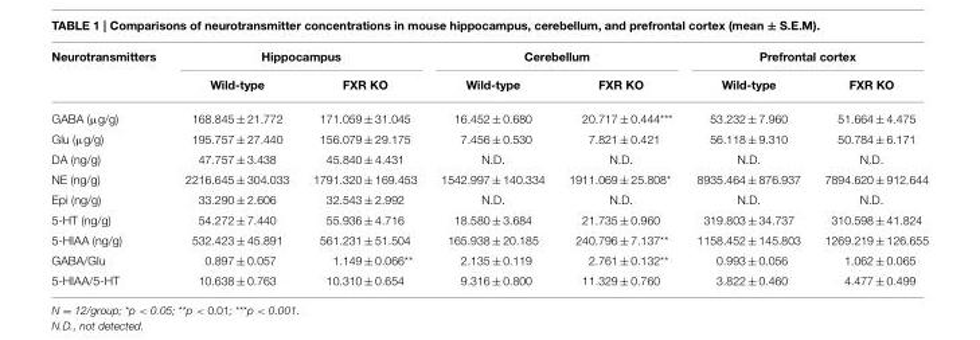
<table><thead><tr><td rowspan="2">Neurotransmitters</td><td colspan="2">Hippocampus</td><td colspan="2">Cerebellum</td><td colspan="2">Prefrontal cortex</td></tr><tr><td>Wild-type</td><td>FXR KO</td><td>Wild-type</td><td>FXR KO</td><td>Wild-type</td><td>FXR KO</td></tr></thead><tbody><tr><td>GABA (µg/g)</td><td>168.845 ± 21.772</td><td>171.059 ± 31.045</td><td>16.452 ± 0.680</td><td>20.717 ± 0.444***</td><td>53.232 ± 7.960</td><td>51.664 ± 4.475</td></tr><tr><td>Glu (µg/g)</td><td>195.757 ± 27.440</td><td>156.079 ± 29.175</td><td>7.456 ± 0.530</td><td>7.821 ± 0.421</td><td>56.118 ± 9.310</td><td>50.784 ± 6.171</td></tr><tr><td>DA (ng/g)</td><td>47.757 ± 3.438</td><td>45.840 ± 4.431</td><td>N.D.</td><td>N.D.</td><td>N.D.</td><td>N.D.</td></tr><tr><td>NE (ng/g)</td><td>2216.645 ± 304.033</td><td>1791.320 ± 169.453</td><td>1542.997 ± 140.334</td><td>1911.069 ± 25.808*</td><td>8935.464 ± 876.937</td><td>7894.620 ± 912.644</td></tr><tr><td>Epi (ng/g)</td><td>33.290 ± 2.606</td><td>32.543 ± 2.992</td><td>N.D.</td><td>N.D.</td><td>N.D.</td><td>N.D.</td></tr><tr><td>5-HT (ng/g)</td><td>54.272 ± 7.440</td><td>55.936 ± 4.716</td><td>18.580 ± 3.684</td><td>21.735 ± 0.960</td><td>319.803 ± 34.737</td><td>310.598 ± 41.824</td></tr><tr><td>5-HIAA (ng/g)</td><td>532.423 ± 45.891</td><td>561.231 ± 51.504</td><td>165.938 ± 20.185</td><td>240.796 ± 7.137**</td><td>1158.452 ± 145.803</td><td>1269.219 ± 126.655</td></tr><tr><td>GABA/Glu</td><td>0.897 ± 0.057</td><td>1.149 ± 0.066**</td><td>2.135 ± 0.119</td><td>2.761 ± 0.132**</td><td>0.993 ± 0.056</td><td>1.062 ± 0.065</td></tr><tr><td>5-HIAA/5-HT</td><td>10.638 ± 0.763</td><td>10.310 ± 0.654</td><td>9.316 ± 0.800</td><td>11.329 ± 0.760</td><td>3.822 ± 0.460</td><td>4.477 ± 0.499</td></tr></tbody></table>